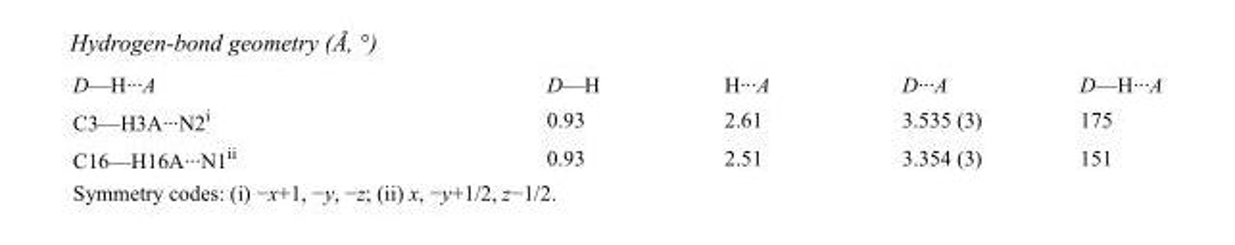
<table><tbody><tr><td>D—H···A</td><td>D—H</td><td>H···A</td><td>D···A</td><td>D—H···A</td></tr><tr><td>C3—H3A···N2<sup>i</sup></td><td>0.93</td><td>2.61</td><td>3.535 (3)</td><td>175</td></tr><tr><td>C16—H16A···N1<sup>ii</sup></td><td>0.93</td><td>2.51</td><td>3.354 (3)</td><td>151</td></tr></tbody></table>